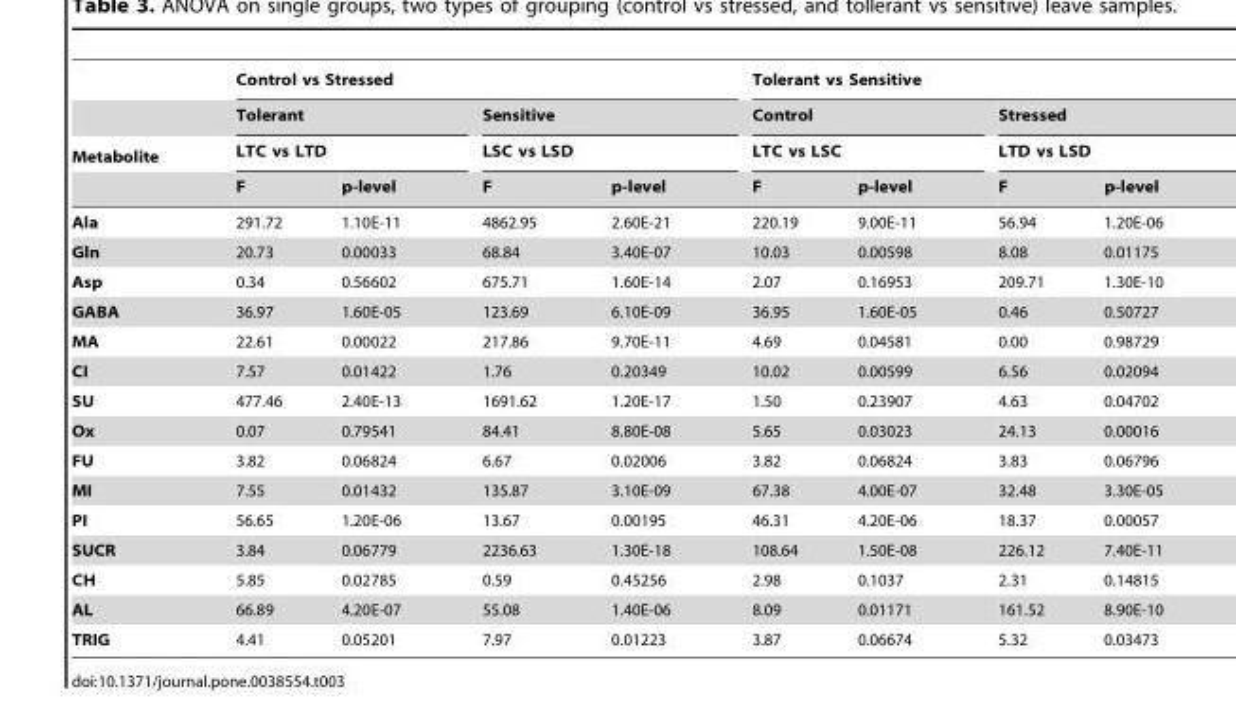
<table><thead><tr><td rowspan="4">Metabolite</td><td colspan="4">Control vs Stressed</td><td colspan="4">Tolerant vs Sensitive</td></tr><tr><td rowspan="2" colspan="2">Tolerant LTC vs LTD</td><td rowspan="2" colspan="2">Sensitive LSC vs LSD</td><td rowspan="2" colspan="2">Control LTC vs LSC</td><td rowspan="2" colspan="2">Stressed LTD vs LSD</td></tr><tr></tr><tr><td>F</td><td>p-level</td><td>F</td><td>p-level</td><td>F</td><td>p-level</td><td>F</td><td>p-level</td></tr></thead><tbody><tr><td>Ala</td><td>291.72</td><td>1.10E-11</td><td>4862.95</td><td>2.60E-21</td><td>220.19</td><td>9.00E-11</td><td>56.94</td><td>1.20E-06</td></tr><tr><td>Gln</td><td>20.73</td><td>0.00033</td><td>68.84</td><td>3.40E-07</td><td>10.03</td><td>0.00598</td><td>8.08</td><td>0.01175</td></tr><tr><td>Asp</td><td>0.34</td><td>0.56602</td><td>675.71</td><td>1.60E-14</td><td>2.07</td><td>0.16953</td><td>209.71</td><td>1.30E-10</td></tr><tr><td>GABA</td><td>36.97</td><td>1.60E-05</td><td>123.69</td><td>6.10E-09</td><td>36.95</td><td>1.60E-05</td><td>0.46</td><td>0.50727</td></tr><tr><td>MA</td><td>22.61</td><td>0.00022</td><td>217.86</td><td>9.70E-11</td><td>4.69</td><td>0.04581</td><td>0.00</td><td>0.98729</td></tr><tr><td>CI</td><td>7.57</td><td>0.01422</td><td>1.76</td><td>0.20349</td><td>10.02</td><td>0.00599</td><td>6.56</td><td>0.02094</td></tr><tr><td>SU</td><td>477.46</td><td>2.40E-13</td><td>1691.62</td><td>1.20E-17</td><td>1.50</td><td>0.23907</td><td>4.63</td><td>0.04702</td></tr><tr><td>Ox</td><td>0.07</td><td>0.79541</td><td>84.41</td><td>8.80E-08</td><td>5.65</td><td>0.03023</td><td>24.13</td><td>0.00016</td></tr><tr><td>FU</td><td>3.82</td><td>0.06824</td><td>6.67</td><td>0.02006</td><td>3.82</td><td>0.06824</td><td>3.83</td><td>0.06796</td></tr><tr><td>MI</td><td>7.55</td><td>0.01432</td><td>135.87</td><td>3.10E-09</td><td>67.38</td><td>4.00E-07</td><td>32.48</td><td>3.30E-05</td></tr><tr><td>PI</td><td>56.65</td><td>1.20E-06</td><td>13.67</td><td>0.00195</td><td>46.31</td><td>4.20E-06</td><td>18.37</td><td>0.00057</td></tr><tr><td>SUCR</td><td>3.84</td><td>0.06779</td><td>2236.63</td><td>1.30E-18</td><td>108.64</td><td>1.50E-08</td><td>226.12</td><td>7.40E-11</td></tr><tr><td>CH</td><td>5.85</td><td>0.02785</td><td>0.59</td><td>0.45256</td><td>2.98</td><td>0.1037</td><td>2.31</td><td>0.14815</td></tr><tr><td>AL</td><td>66.89</td><td>4.20E-07</td><td>55.08</td><td>1.40E-06</td><td>8.09</td><td>0.01171</td><td>161.52</td><td>8.90E-10</td></tr><tr><td>TRIG</td><td>4.41</td><td>0.05201</td><td>7.97</td><td>0.01223</td><td>3.87</td><td>0.06674</td><td>5.32</td><td>0.03473</td></tr></tbody></table>